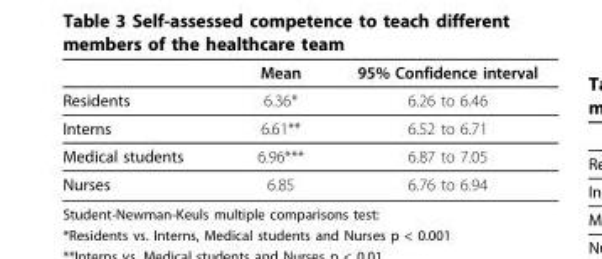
<table><thead><tr><td></td><td>Mean</td><td>95% Confidence interval</td></tr></thead><tbody><tr><td>Residents</td><td>6.36*</td><td>6.26 to 6.46</td></tr><tr><td>Interns</td><td>6.61**</td><td>6.52 to 6.71</td></tr><tr><td>Medical students</td><td>6.96***</td><td>6.87 to 7.05</td></tr><tr><td>Nurses</td><td>6.85</td><td>6.76 to 6.94</td></tr></tbody></table>